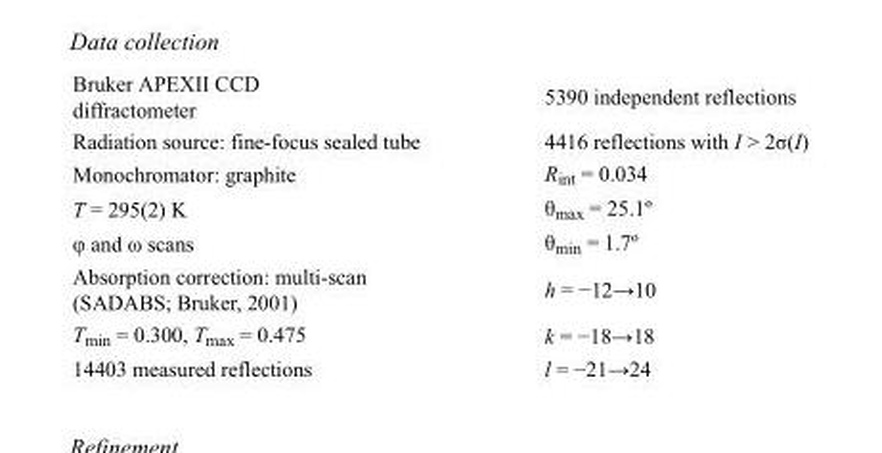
<table><tbody><tr><td>Bruker APEXII CCD diffractometer</td><td>5390 independent reflections</td></tr><tr><td>Radiation source: fine-focus sealed tube</td><td>4416 reflections with I &gt; 2σ(I)</td></tr><tr><td>Monochromator: graphite</td><td>R<sub>int</sub> = 0.034</td></tr><tr><td>T = 295(2) K</td><td>θ<sub>max</sub> = 25.1º</td></tr><tr><td>φ and ω scans</td><td>θ<sub>min</sub> = 1.7º</td></tr><tr><td>Absorption correction: multi-scan (SADABS; Bruker, 2001)</td><td>h = −12→10</td></tr><tr><td>T<sub>min</sub> = 0.300, T<sub>max</sub> = 0.475</td><td>k = −18→18</td></tr><tr><td>14403 measured reflections</td><td>l = −21→24</td></tr></tbody></table>